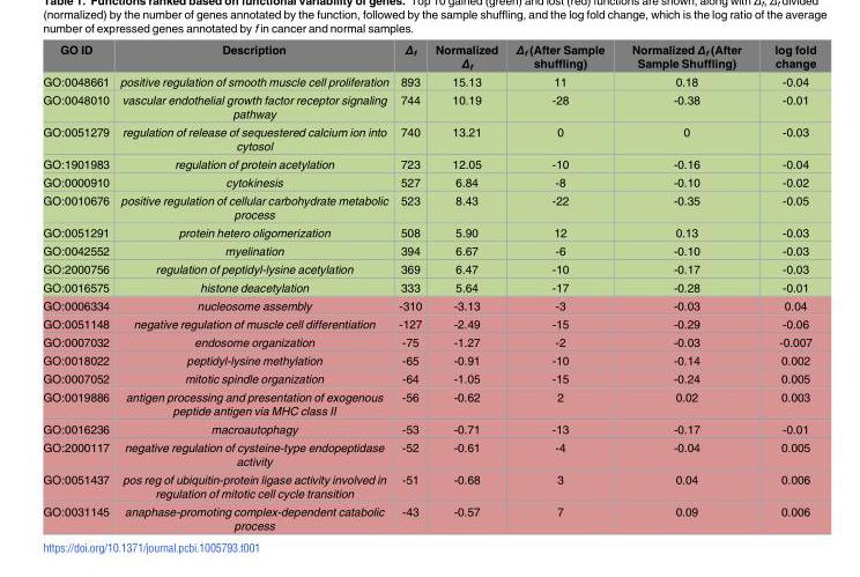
<table><thead><tr><td>GO ID</td><td>Description</td><td>Δ<sub>f</sub></td><td>Normalized Δ<sub>f</sub></td><td>Δ<sub>f</sub> (After Sample shuffling)</td><td>Normalized Δ<sub>f</sub> (After Sample Shuffling)</td><td>log fold change</td></tr></thead><tbody><tr><td>GO:0048661</td><td>positive regulation of smooth muscle cell proliferation</td><td>893</td><td>15.13</td><td>11</td><td>0.18</td><td>-0.04</td></tr><tr><td>GO:0048010</td><td>vascular endothelial growth factor receptor signaling pathway</td><td>744</td><td>10.19</td><td>-28</td><td>-0.38</td><td>-0.01</td></tr><tr><td>GO:0051279</td><td>regulation of release of sequestered calcium ion into cytosol</td><td>740</td><td>13.21</td><td>0</td><td>0</td><td>-0.03</td></tr><tr><td>GO:1901983</td><td>regulation of protein acetylation</td><td>723</td><td>12.05</td><td>-10</td><td>-0.16</td><td>-0.04</td></tr><tr><td>GO:0000910</td><td>cytokinesis</td><td>527</td><td>6.84</td><td>-8</td><td>-0.10</td><td>-0.02</td></tr><tr><td>GO:0010676</td><td>positive regulation of cellular carbohydrate metabolic process</td><td>523</td><td>8.43</td><td>-22</td><td>-0.35</td><td>-0.05</td></tr><tr><td>GO:0051291</td><td>protein hetero oligomerization</td><td>508</td><td>5.90</td><td>12</td><td>0.13</td><td>-0.03</td></tr><tr><td>GO:0042552</td><td>myelination</td><td>394</td><td>6.67</td><td>-6</td><td>-0.10</td><td>-0.03</td></tr><tr><td>GO:2000756</td><td>regulation of peptidyl-lysine acetylation</td><td>369</td><td>6.47</td><td>-10</td><td>-0.17</td><td>-0.03</td></tr><tr><td>GO:0016575</td><td>histone deacetylation</td><td>333</td><td>5.64</td><td>-17</td><td>-0.28</td><td>-0.01</td></tr><tr><td>GO:0006334</td><td>nucleosome assembly</td><td>-310</td><td>-3.13</td><td>-3</td><td>-0.03</td><td>0.04</td></tr><tr><td>GO:0051148</td><td>negative regulation of muscle cell differentiation</td><td>-127</td><td>-2.49</td><td>-15</td><td>-0.29</td><td>-0.06</td></tr><tr><td>GO:0007032</td><td>endosome organization</td><td>-75</td><td>-1.27</td><td>-2</td><td>-0.03</td><td>-0.007</td></tr><tr><td>GO:0018022</td><td>peptidyl-lysine methylation</td><td>-65</td><td>-0.91</td><td>-10</td><td>-0.14</td><td>0.002</td></tr><tr><td>GO:0007052</td><td>mitotic spindle organization</td><td>-64</td><td>-1.05</td><td>-15</td><td>-0.24</td><td>0.005</td></tr><tr><td>GO:0019886</td><td>antigen processing and presentation of exogenous peptide antigen via MHC class II</td><td>-56</td><td>-0.62</td><td>2</td><td>0.02</td><td>0.003</td></tr><tr><td>GO:0016236</td><td>macroautophagy</td><td>-53</td><td>-0.71</td><td>-13</td><td>-0.17</td><td>-0.01</td></tr><tr><td>GO:2000117</td><td>negative regulation of cysteine-type endopeptidase activity</td><td>-52</td><td>-0.61</td><td>-4</td><td>-0.04</td><td>0.005</td></tr><tr><td>GO:0051437</td><td>pos reg of ubiquitin-protein ligase activity involved in regulation of mitotic cell cycle transition</td><td>-51</td><td>-0.68</td><td>3</td><td>0.04</td><td>0.006</td></tr><tr><td>GO:0031145</td><td>anaphase-promoting complex-dependent catabolic process</td><td>-43</td><td>-0.57</td><td>7</td><td>0.09</td><td>0.006</td></tr></tbody></table>